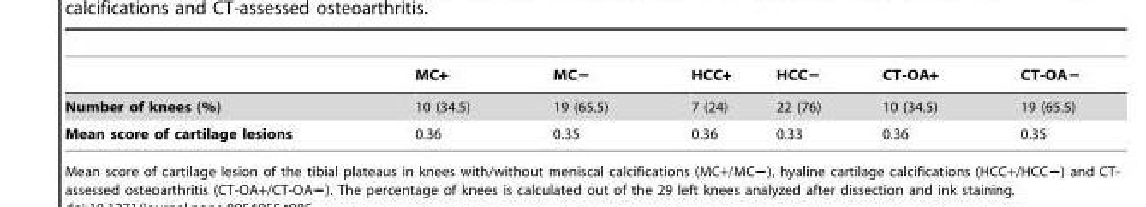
<table><thead><tr><td></td><td>MC+</td><td>MC−</td><td>HCC+</td><td>HCC−</td><td>CT-OA+</td><td>CT-OA−</td></tr></thead><tbody><tr><td>Number of knees (%)</td><td>10 (34.5)</td><td>19 (65.5)</td><td>7 (24)</td><td>22 (76)</td><td>10 (34.5)</td><td>19 (65.5)</td></tr><tr><td>Mean score of cartilage lesions</td><td>0.36</td><td>0.35</td><td>0.36</td><td>0.33</td><td>0.36</td><td>0.35</td></tr></tbody></table>